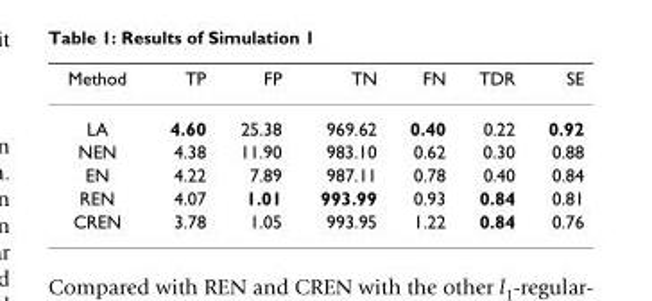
<table><thead><tr><td>Method</td><td>TP</td><td>FP</td><td>TN</td><td>FN</td><td>TDR</td><td>SE</td></tr></thead><tbody><tr><td>LA</td><td>4.60</td><td>25.38</td><td>969.62</td><td>0.40</td><td>0.22</td><td>0.92</td></tr><tr><td>NEN</td><td>4.38</td><td>11.90</td><td>983.10</td><td>0.62</td><td>0.30</td><td>0.88</td></tr><tr><td>EN</td><td>4.22</td><td>7.89</td><td>987.11</td><td>0.78</td><td>0.40</td><td>0.84</td></tr><tr><td>REN</td><td>4.07</td><td>1.01</td><td>993.99</td><td>0.93</td><td>0.84</td><td>0.81</td></tr><tr><td>CREN</td><td>3.78</td><td>1.05</td><td>993.95</td><td>1.22</td><td>0.84</td><td>0.76</td></tr></tbody></table>